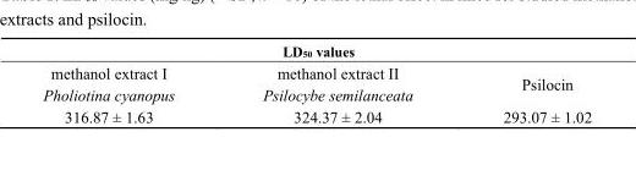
<table><thead><tr><td colspan="3">LD<sub>50</sub> values</td></tr><tr><td>methanol extract I Pholiotina cyanopus</td><td>methanol extract II Psilocybe semilanceata</td><td>Psilocin</td></tr></thead><tbody><tr><td>316.87 ± 1.63</td><td>324.37 ± 2.04</td><td>293.07 ± 1.02</td></tr></tbody></table>